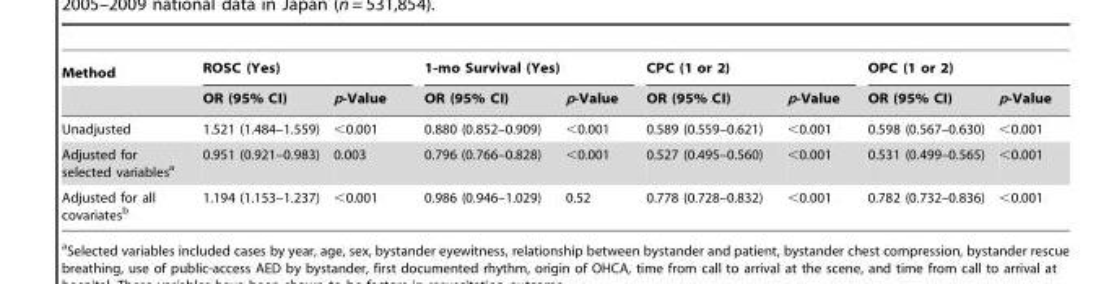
<table><thead><tr><td rowspan="2">Method</td><td colspan="2">ROSC (Yes)</td><td colspan="2">1-mo Survival (Yes)</td><td colspan="2">CPC (1 or 2)</td><td colspan="2">OPC (1 or 2)</td></tr><tr><td>OR (95% CI)</td><td>p-Value</td><td>OR (95% CI)</td><td>p-Value</td><td>OR (95% CI)</td><td>p-Value</td><td>OR (95% CI)</td><td>p-Value</td></tr></thead><tbody><tr><td>Unadjusted</td><td>1.521 (1.484–1.559)</td><td>&lt;0.001</td><td>0.880 (0.852–0.909)</td><td>&lt;0.001</td><td>0.589 (0.559–0.621)</td><td>&lt;0.001</td><td>0.598 (0.567–0.630)</td><td>&lt;0.001</td></tr><tr><td>Adjusted for selected variables<sup>a</sup></td><td>0.951 (0.921–0.983)</td><td>0.003</td><td>0.796 (0.766–0.828)</td><td>&lt;0.001</td><td>0.527 (0.495–0.560)</td><td>&lt;0.001</td><td>0.531 (0.499–0.565)</td><td>&lt;0.001</td></tr><tr><td>Adjusted for all covariates<sup>b</sup></td><td>1.194 (1.153–1.237)</td><td>&lt;0.001</td><td>0.986 (0.946–1.029)</td><td>0.52</td><td>0.778 (0.728–0.832)</td><td>&lt;0.001</td><td>0.782 (0.732–0.836)</td><td>&lt;0.001</td></tr></tbody></table>